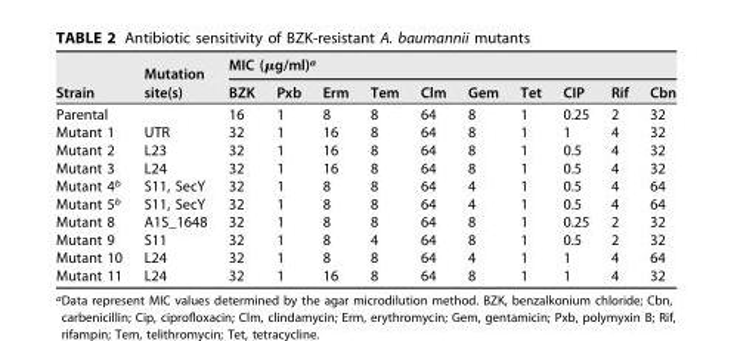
<table><thead><tr><td rowspan="2">Strain</td><td rowspan="2">Mutation site(s)</td><td colspan="10">MIC (µg/ml)<sup>a</sup></td></tr><tr><td>BZK</td><td>Pxb</td><td>Erm</td><td>Tem</td><td>Clm</td><td>Gem</td><td>Tet</td><td>CIP</td><td>Rif</td><td>Cbn</td></tr></thead><tbody><tr><td>Parental</td><td></td><td>16</td><td>1</td><td>8</td><td>8</td><td>64</td><td>8</td><td>1</td><td>0.25</td><td>2</td><td>32</td></tr><tr><td>Mutant 1</td><td>UTR</td><td>32</td><td>1</td><td>16</td><td>8</td><td>64</td><td>8</td><td>1</td><td>1</td><td>4</td><td>32</td></tr><tr><td>Mutant 2</td><td>L23</td><td>32</td><td>1</td><td>16</td><td>8</td><td>64</td><td>8</td><td>1</td><td>0.5</td><td>4</td><td>32</td></tr><tr><td>Mutant 3</td><td>L24</td><td>32</td><td>1</td><td>16</td><td>8</td><td>64</td><td>8</td><td>1</td><td>0.5</td><td>4</td><td>32</td></tr><tr><td>Mutant 4<sup>b</sup></td><td>S11, SecY</td><td>32</td><td>1</td><td>8</td><td>8</td><td>64</td><td>4</td><td>1</td><td>0.5</td><td>4</td><td>64</td></tr><tr><td>Mutant 5<sup>b</sup></td><td>S11, SecY</td><td>32</td><td>1</td><td>8</td><td>8</td><td>64</td><td>4</td><td>1</td><td>0.5</td><td>4</td><td>64</td></tr><tr><td>Mutant 8</td><td>A1S_1648</td><td>32</td><td>1</td><td>8</td><td>8</td><td>64</td><td>8</td><td>1</td><td>0.25</td><td>2</td><td>32</td></tr><tr><td>Mutant 9</td><td>S11</td><td>32</td><td>1</td><td>8</td><td>4</td><td>64</td><td>8</td><td>1</td><td>0.5</td><td>2</td><td>32</td></tr><tr><td>Mutant 10</td><td>L24</td><td>32</td><td>1</td><td>8</td><td>8</td><td>64</td><td>4</td><td>1</td><td>1</td><td>4</td><td>64</td></tr><tr><td>Mutant 11</td><td>L24</td><td>32</td><td>1</td><td>16</td><td>8</td><td>64</td><td>8</td><td>1</td><td>1</td><td>4</td><td>32</td></tr></tbody></table>